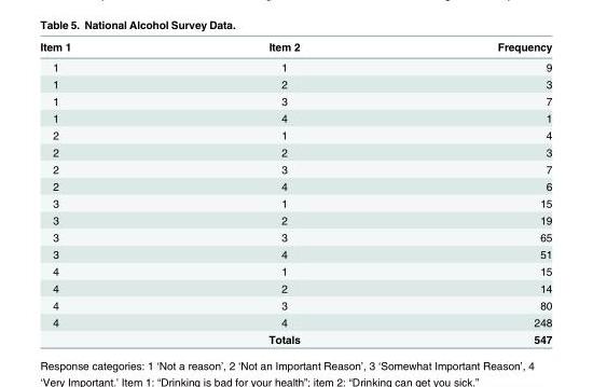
<table><thead><tr><td>Item 1</td><td>Item 2</td><td>Frequency</td></tr></thead><tbody><tr><td>1</td><td>1</td><td>9</td></tr><tr><td>1</td><td>2</td><td>3</td></tr><tr><td>1</td><td>3</td><td>7</td></tr><tr><td>1</td><td>4</td><td>1</td></tr><tr><td>2</td><td>1</td><td>4</td></tr><tr><td>2</td><td>2</td><td>3</td></tr><tr><td>2</td><td>3</td><td>7</td></tr><tr><td>2</td><td>4</td><td>6</td></tr><tr><td>3</td><td>1</td><td>15</td></tr><tr><td>3</td><td>2</td><td>19</td></tr><tr><td>3</td><td>3</td><td>65</td></tr><tr><td>3</td><td>4</td><td>51</td></tr><tr><td>4</td><td>1</td><td>15</td></tr><tr><td>4</td><td>2</td><td>14</td></tr><tr><td>4</td><td>3</td><td>80</td></tr><tr><td rowspan="2">4</td><td>4</td><td>248</td></tr><tr><td>Totals</td><td>547</td></tr></tbody></table>